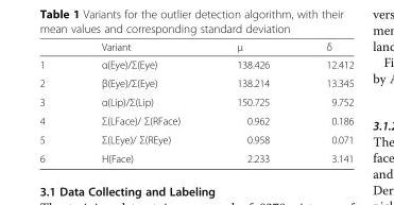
<table><thead><tr><td></td><td>Variant</td><td>μ</td><td>δ</td></tr></thead><tbody><tr><td>1</td><td>α(Eye)/Σ(Eye)</td><td>138.426</td><td>12.412</td></tr><tr><td>2</td><td>β(Eye)/Σ(Eye)</td><td>138.214</td><td>13.345</td></tr><tr><td>3</td><td>α(Lip)/Σ(Lip)</td><td>150.725</td><td>9.752</td></tr><tr><td>4</td><td>Σ(LFace)/ Σ(RFace)</td><td>0.962</td><td>0.186</td></tr><tr><td>5</td><td>Σ(LEye)/ Σ(REye)</td><td>0.958</td><td>0.071</td></tr><tr><td>6</td><td>H(Face)</td><td>2.233</td><td>3.141</td></tr></tbody></table>